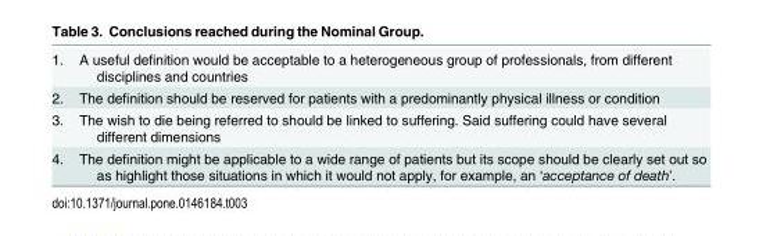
<table><tbody><tr><td>1.</td><td>A useful definition would be acceptable to a heterogeneous group of professionals, from different disciplines and countries</td></tr><tr><td>2.</td><td>The definition should be reserved for patients with a predominantly physical illness or condition</td></tr><tr><td>3.</td><td>The wish to die being referred to should be linked to suffering. Said suffering could have several different dimensions</td></tr><tr><td>4.</td><td>The definition might be applicable to a wide range of patients but its scope should be clearly set out so as highlight those situations in which it would not apply, for example, an ‘acceptance of death’.</td></tr></tbody></table>